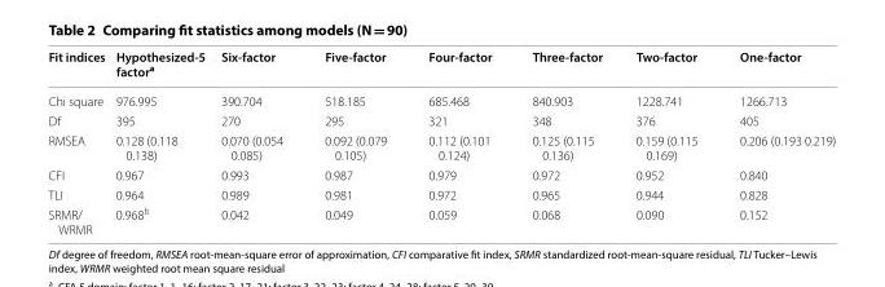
<table><thead><tr><td>Fit indices</td><td>Hypothesized-5 factor<sup>a</sup></td><td>Six-factor</td><td>Five-factor</td><td>Four-factor</td><td>Three-factor</td><td>Two-factor</td><td>One-factor</td></tr></thead><tbody><tr><td>Chi square</td><td>976.995</td><td>390.704</td><td>518.185</td><td>685.468</td><td>840.903</td><td>1228.741</td><td>1266.713</td></tr><tr><td>Df</td><td>395</td><td>270</td><td>295</td><td>321</td><td>348</td><td>376</td><td>405</td></tr><tr><td>RMSEA</td><td>0.128 (0.118 0.138)</td><td>0.070 (0.054 0.085)</td><td>0.092 (0.079 0.105)</td><td>0.112 (0.101 0.124)</td><td>0.125 (0.115 0.136)</td><td>0.159 (0.115 0.169)</td><td>0.206 (0.193 0.219)</td></tr><tr><td>CFI</td><td>0.967</td><td>0.993</td><td>0.987</td><td>0.979</td><td>0.972</td><td>0.952</td><td>0.840</td></tr><tr><td>TLI</td><td>0.964</td><td>0.989</td><td>0.981</td><td>0.972</td><td>0.965</td><td>0.944</td><td>0.828</td></tr><tr><td>SRMR/ WRMR</td><td>0.968<sup>b</sup></td><td>0.042</td><td>0.049</td><td>0.059</td><td>0.068</td><td>0.090</td><td>0.152</td></tr></tbody></table>